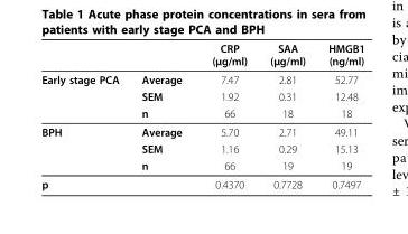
<table><thead><tr><td></td><td></td><td>CRP (μg/ml)</td><td>SAA (μg/ml)</td><td>HMGB1 (ng/ml)</td></tr></thead><tbody><tr><td rowspan="3">Early stage PCA</td><td>Average</td><td>7.47</td><td>2.81</td><td>52.77</td></tr><tr><td>SEM</td><td>1.92</td><td>0.31</td><td>12.48</td></tr><tr><td>n</td><td>66</td><td>18</td><td>18</td></tr><tr><td rowspan="3">BPH</td><td>Average</td><td>5.70</td><td>2.71</td><td>49.11</td></tr><tr><td>SEM</td><td>1.16</td><td>0.29</td><td>15.13</td></tr><tr><td>n</td><td>66</td><td>19</td><td>19</td></tr><tr><td>p</td><td></td><td>0.4370</td><td>0.7728</td><td>0.7497</td></tr></tbody></table>